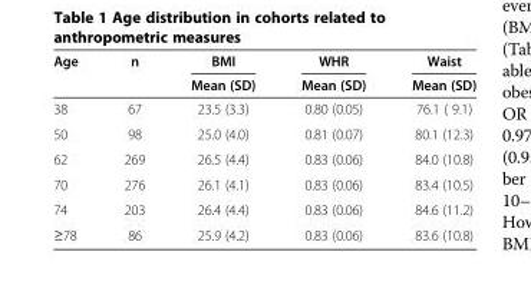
<table><thead><tr><td rowspan="2">Age</td><td rowspan="2">n</td><td rowspan="2">BMI Mean (SD)</td><td rowspan="2">WHR Mean (SD)</td><td rowspan="2">Waist Mean (SD)</td></tr><tr></tr></thead><tbody><tr><td>38</td><td>67</td><td>23.5 (3.3)</td><td>0.80 (0.05)</td><td>76.1 ( 9.1)</td></tr><tr><td>50</td><td>98</td><td>25.0 (4.0)</td><td>0.81 (0.07)</td><td>80.1 (12.3)</td></tr><tr><td>62</td><td>269</td><td>26.5 (4.4)</td><td>0.83 (0.06)</td><td>84.0 (10.8)</td></tr><tr><td>70</td><td>276</td><td>26.1 (4.1)</td><td>0.83 (0.06)</td><td>83.4 (10.5)</td></tr><tr><td>74</td><td>203</td><td>26.4 (4.4)</td><td>0.83 (0.06)</td><td>84.6 (11.2)</td></tr><tr><td>≥78</td><td>86</td><td>25.9 (4.2)</td><td>0.83 (0.06)</td><td>83.6 (10.8)</td></tr></tbody></table>